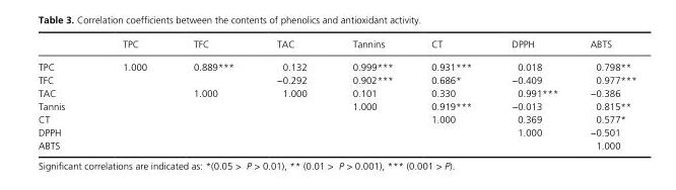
<table><thead><tr><td></td><td>TPC</td><td>TFC</td><td>TAC</td><td>Tannins</td><td>CT</td><td>DPPH</td><td>ABTS</td></tr></thead><tbody><tr><td>TPC</td><td>1.000</td><td>0.889***</td><td>0.132</td><td>0.999***</td><td>0.931***</td><td>0.018</td><td>0.798**</td></tr><tr><td>TFC</td><td></td><td></td><td>−0.292</td><td>0.902***</td><td>0.686*</td><td>−0.409</td><td>0.977***</td></tr><tr><td>TAC</td><td></td><td>1.000</td><td>1.000</td><td>0.101</td><td>0.330</td><td>0.991***</td><td>−0.386</td></tr><tr><td>Tannis</td><td></td><td></td><td></td><td>1.000</td><td>0.919***</td><td>−0.013</td><td>0.815**</td></tr><tr><td>CT</td><td></td><td></td><td></td><td></td><td>1.000</td><td>0.369</td><td>0.577*</td></tr><tr><td>DPPH</td><td></td><td></td><td></td><td></td><td></td><td>1.000</td><td>−0.501</td></tr><tr><td>ABTS</td><td></td><td></td><td></td><td></td><td></td><td></td><td>1.000</td></tr></tbody></table>